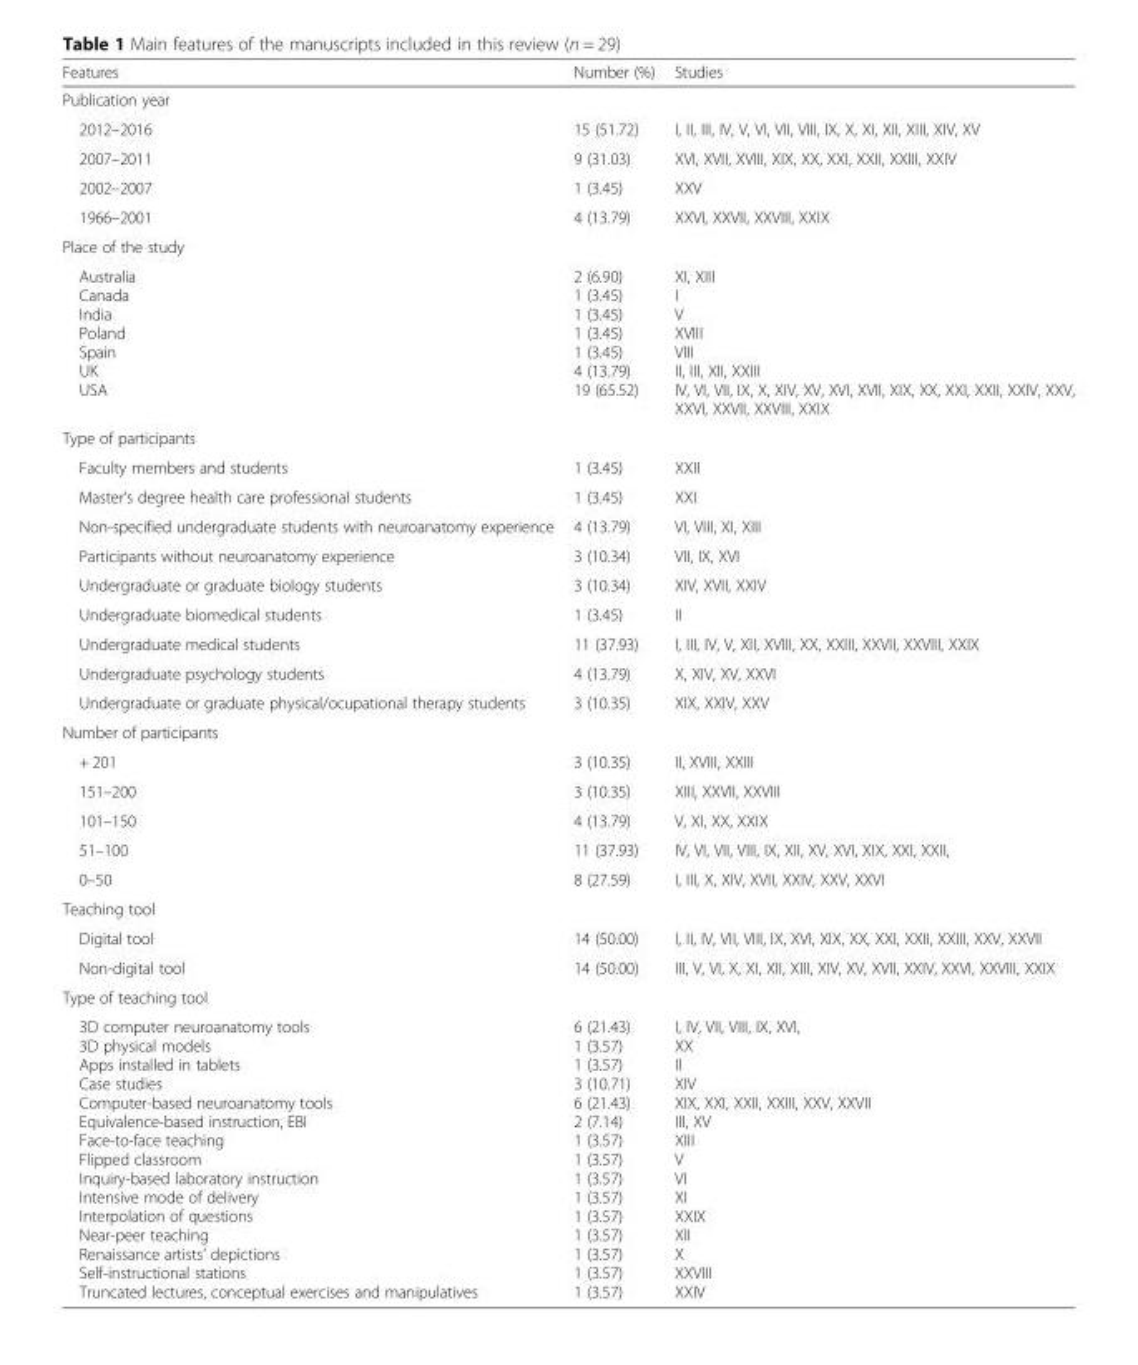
<table><thead><tr><td>Features</td><td>Number (%)</td><td>Studies</td></tr></thead><tbody><tr><td colspan="3">Publication year</td></tr><tr><td>2012–2016</td><td>15 (51.72)</td><td>I, II, III, IV, V, VI, VII, VIII, IX, X, XI, XII, XIII, XIV, XV</td></tr><tr><td>2007–2011</td><td>9 (31.03)</td><td>XVI, XVII, XVIII, XIX, XX, XXI, XXII, XXIII, XXIV</td></tr><tr><td>2002–2007</td><td>1 (3.45)</td><td>XXV</td></tr><tr><td>1966–2001</td><td>4 (13.79)</td><td>XXVI, XXVII, XXVIII, XXIX</td></tr><tr><td colspan="3">Place of the study</td></tr><tr><td>Australia Canada India Poland Spain UK USA</td><td>2 (6.90) 1 (3.45) 1 (3.45) 1 (3.45) 1 (3.45) 4 (13.79) 19 (65.52)</td><td>XI, XIII I V XVIII VIII II, III, XII, XXIII IV, VI, VII, IX, X, XIV, XV, XVI, XVII, XIX, XX, XXI, XXII, XXIV, XXV, XXVI, XXVII, XXVIII, XXIX</td></tr><tr><td colspan="3">Type of participants</td></tr><tr><td>Faculty members and students</td><td>1 (3.45)</td><td>XXII</td></tr><tr><td>Master’s degree health care professional students</td><td>1 (3.45)</td><td>XXI</td></tr><tr><td>Non-specified undergraduate students with neuroanatomy experience</td><td>4 (13.79)</td><td>VI, VIII, XI, XIII</td></tr><tr><td>Participants without neuroanatomy experience</td><td>3 (10.34)</td><td>VII, IX, XVI</td></tr><tr><td>Undergraduate or graduate biology students</td><td>3 (10.34)</td><td>XIV, XVII, XXIV</td></tr><tr><td>Undergraduate biomedical students</td><td>1 (3.45)</td><td>II</td></tr><tr><td>Undergraduate medical students</td><td>11 (37.93)</td><td>I, III, IV, V, XII, XVIII, XX, XXIII, XXVII, XXVIII, XXIX</td></tr><tr><td>Undergraduate psychology students</td><td>4 (13.79)</td><td>X, XIV, XV, XXVI</td></tr><tr><td>Undergraduate or graduate physical/ocupational therapy students</td><td>3 (10.35)</td><td>XIX, XXIV, XXV</td></tr><tr><td colspan="3">Number of participants</td></tr><tr><td>+ 201</td><td>3 (10.35)</td><td>II, XVIII, XXIII</td></tr><tr><td>151–200</td><td>3 (10.35)</td><td>XIII, XXVII, XXVIII</td></tr><tr><td>101–150</td><td>4 (13.79)</td><td>V, XI, XX, XXIX</td></tr><tr><td>51–100</td><td>11 (37.93)</td><td>IV, VI, VII, VIII, IX, XII, XV, XVI, XIX, XXI, XXII,</td></tr><tr><td>0–50</td><td>8 (27.59)</td><td>I, III, X, XIV, XVII, XXIV, XXV, XXVI</td></tr><tr><td colspan="3">Teaching tool</td></tr><tr><td>Digital tool</td><td>14 (50.00)</td><td>I, II, IV, VII, VIII, IX, XVI, XIX, XX, XXI, XXII, XXIII, XXV, XXVII</td></tr><tr><td>Non-digital tool</td><td>14 (50.00)</td><td>III, V, VI, X, XI, XII, XIII, XIV, XV, XVII, XXIV, XXVI, XXVIII, XXIX</td></tr><tr><td colspan="3">Type of teaching tool</td></tr><tr><td>3D computer neuroanatomy tools 3D physical models Apps installed in tablets Case studies Computer-based neuroanatomy tools Equivalence-based instruction, EBI Face-to-face teaching Flipped classroom Inquiry-based laboratory instruction Intensive mode of delivery Interpolation of questions Near-peer teaching Renaissance artists’ depictions Self-instructional stations Truncated lectures, conceptual exercises and manipulatives</td><td>6 (21.43) 1 (3.57) 1 (3.57) 3 (10.71) 6 (21.43) 2 (7.14) 1 (3.57) 1 (3.57) 1 (3.57) 1 (3.57) 1 (3.57) 1 (3.57) 1 (3.57) 1 (3.57) 1 (3.57)</td><td>I, IV, VII, VIII, IX, XVI, XX II XIV XIX, XXI, XXII, XXIII, XXV, XXVII III, XV XIII V VI XI XXIX XII X XXVIII XXIV</td></tr></tbody></table>